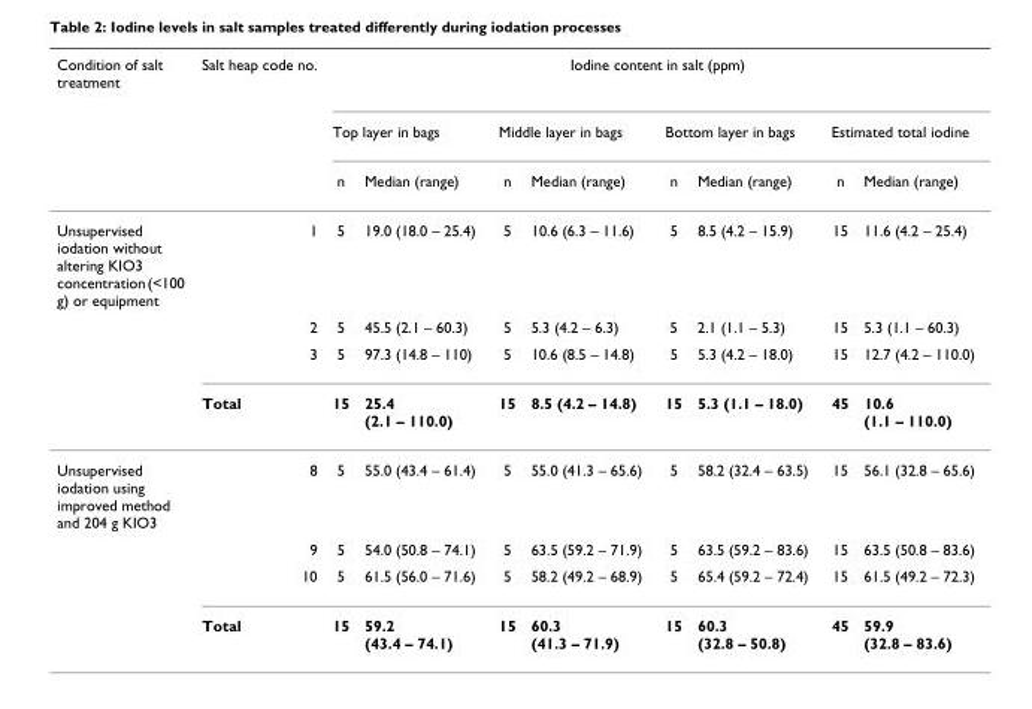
<table><thead><tr><td rowspan="3">Condition of salt treatment</td><td rowspan="3">Salt heap code no.</td><td colspan="8">Iodine content in salt (ppm)</td></tr><tr><td colspan="2">Top layer in bags</td><td colspan="2">Middle layer in bags</td><td colspan="2">Bottom layer in bags</td><td colspan="2">Estimated total iodine</td></tr><tr><td>n</td><td>Median (range)</td><td>n</td><td>Median (range)</td><td>n</td><td>Median (range)</td><td>n</td><td>Median (range)</td></tr></thead><tbody><tr><td rowspan="4">Unsupervised iodation without altering KIO3 concentration (&lt;100 g) or equipment</td><td>1</td><td>5</td><td>19.0 (18.0 – 25.4)</td><td>5</td><td>10.6 (6.3 – 11.6)</td><td>5</td><td>8.5 (4.2 – 15.9)</td><td>15</td><td>11.6 (4.2 – 25.4)</td></tr><tr><td>2</td><td>5</td><td>45.5 (2.1 – 60.3)</td><td>5</td><td>5.3 (4.2 – 6.3)</td><td>5</td><td>2.1 (1.1 – 5.3)</td><td>15</td><td>5.3 (1.1 – 60.3)</td></tr><tr><td>3</td><td>5</td><td>97.3 (14.8 – 110)</td><td>5</td><td>10.6 (8.5 – 14.8)</td><td>5</td><td>5.3 (4.2 – 18.0)</td><td>15</td><td>12.7 (4.2 – 110.0)</td></tr><tr><td>Total</td><td>15</td><td>25.4 (2.1 – 110.0)</td><td>15</td><td>8.5 (4.2 – 14.8)</td><td>15</td><td>5.3 (1.1 – 18.0)</td><td>45</td><td>10.6 (1.1 – 110.0)</td></tr><tr><td rowspan="4">Unsupervised iodation using improved method and 204 g KIO3</td><td>8</td><td>5</td><td>55.0 (43.4 – 61.4)</td><td>5</td><td>55.0 (41.3 – 65.6)</td><td>5</td><td>58.2 (32.4 – 63.5)</td><td>15</td><td>56.1 (32.8 – 65.6)</td></tr><tr><td>9</td><td>5</td><td>54.0 (50.8 – 74.1)</td><td>5</td><td>63.5 (59.2 – 71.9)</td><td>5</td><td>63.5 (59.2 – 83.6)</td><td>15</td><td>63.5 (50.8 – 83.6)</td></tr><tr><td>10</td><td>5</td><td>61.5 (56.0 – 71.6)</td><td>5</td><td>58.2 (49.2 – 68.9)</td><td>5</td><td>65.4 (59.2 – 72.4)</td><td>15</td><td>61.5 (49.2 – 72.3)</td></tr><tr><td>Total</td><td>15</td><td>59.2 (43.4 – 74.1)</td><td>15</td><td>60.3 (41.3 – 71.9)</td><td>15</td><td>60.3 (32.8 – 50.8)</td><td>45</td><td>59.9 (32.8 – 83.6)</td></tr></tbody></table>